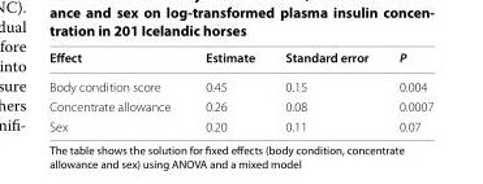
<table><thead><tr><td>Effect</td><td>Estimate</td><td>Standard error</td><td>P</td></tr></thead><tbody><tr><td>Body condition score</td><td>0.45</td><td>0.15</td><td>0.004</td></tr><tr><td>Concentrate allowance</td><td>0.26</td><td>0.08</td><td>0.0007</td></tr><tr><td>Sex</td><td>0.20</td><td>0.11</td><td>0.07</td></tr></tbody></table>